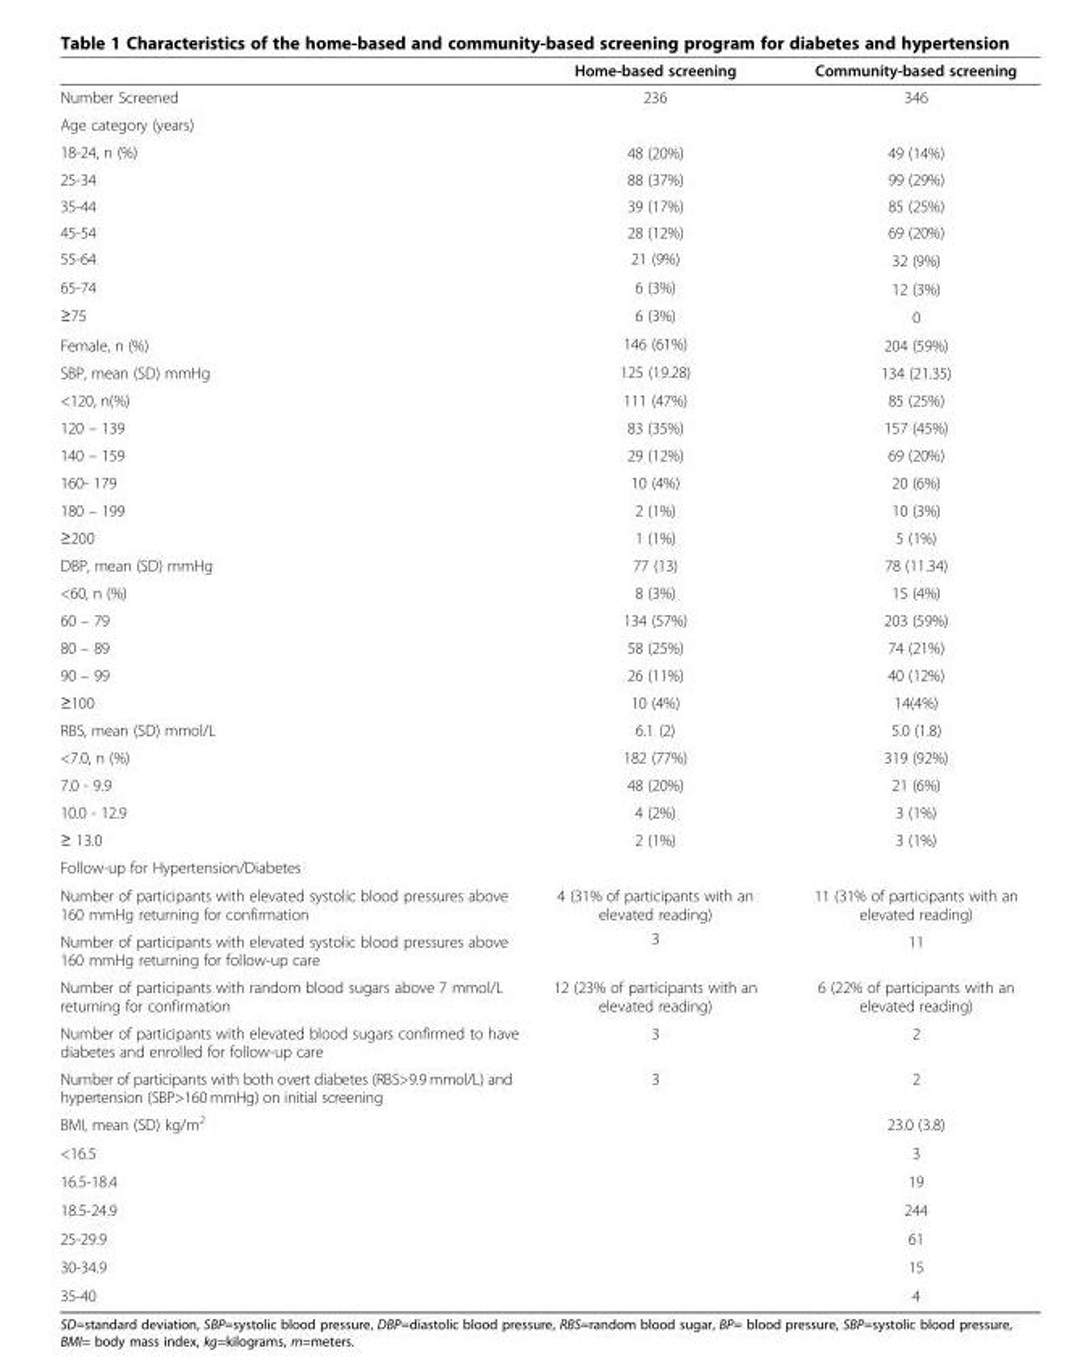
<table><thead><tr><td></td><td>Home-based screening</td><td>Community-based screening</td></tr></thead><tbody><tr><td>Number Screened</td><td>236</td><td>346</td></tr><tr><td colspan="3">Age category (years)</td></tr><tr><td>18-24, n (%)</td><td>48 (20%)</td><td>49 (14%)</td></tr><tr><td>25-34</td><td>88 (37%)</td><td>99 (29%)</td></tr><tr><td>35-44</td><td>39 (17%)</td><td>85 (25%)</td></tr><tr><td>45-54</td><td>28 (12%)</td><td>69 (20%)</td></tr><tr><td>55-64</td><td>21 (9%)</td><td>32 (9%)</td></tr><tr><td>65-74</td><td>6 (3%)</td><td>12 (3%)</td></tr><tr><td>≥75</td><td>6 (3%)</td><td>0</td></tr><tr><td>Female, n (%)</td><td>146 (61%)</td><td>204 (59%)</td></tr><tr><td>SBP, mean (SD) mmHg</td><td>125 (19.28)</td><td>134 (21.35)</td></tr><tr><td>&lt;120, n(%)</td><td>111 (47%)</td><td>85 (25%)</td></tr><tr><td>120 – 139</td><td>83 (35%)</td><td>157 (45%)</td></tr><tr><td>140 – 159</td><td>29 (12%)</td><td>69 (20%)</td></tr><tr><td>160- 179</td><td>10 (4%)</td><td>20 (6%)</td></tr><tr><td>180 – 199</td><td>2 (1%)</td><td>10 (3%)</td></tr><tr><td>≥200</td><td>1 (1%)</td><td>5 (1%)</td></tr><tr><td>DBP, mean (SD) mmHg</td><td>77 (13)</td><td>78 (11.34)</td></tr><tr><td>&lt;60, n (%)</td><td>8 (3%)</td><td>15 (4%)</td></tr><tr><td>60 – 79</td><td>134 (57%)</td><td>203 (59%)</td></tr><tr><td>80 – 89</td><td>58 (25%)</td><td>74 (21%)</td></tr><tr><td>90 – 99</td><td>26 (11%)</td><td>40 (12%)</td></tr><tr><td>≥100</td><td>10 (4%)</td><td>14(4%)</td></tr><tr><td>RBS, mean (SD) mmol/L</td><td>6.1 (2)</td><td>5.0 (1.8)</td></tr><tr><td>&lt;7.0, n (%)</td><td>182 (77%)</td><td>319 (92%)</td></tr><tr><td>7.0 - 9.9</td><td>48 (20%)</td><td>21 (6%)</td></tr><tr><td>10.0 - 12.9</td><td>4 (2%)</td><td>3 (1%)</td></tr><tr><td>≥ 13.0</td><td>2 (1%)</td><td>3 (1%)</td></tr><tr><td colspan="3">Follow-up for Hypertension/Diabetes</td></tr><tr><td>Number of participants with elevated systolic blood pressures above 160 mmHg returning for confirmation</td><td>4 (31% of participants with an elevated reading)</td><td>11 (31% of participants with an elevated reading)</td></tr><tr><td>Number of participants with elevated systolic blood pressures above 160 mmHg returning for follow-up care</td><td>3</td><td>11</td></tr><tr><td>Number of participants with random blood sugars above 7 mmol/L returning for confirmation</td><td>12 (23% of participants with an elevated reading)</td><td>6 (22% of participants with an elevated reading)</td></tr><tr><td>Number of participants with elevated blood sugars confirmed to have diabetes and enrolled for follow-up care</td><td>3</td><td>2</td></tr><tr><td>Number of participants with both overt diabetes (RBS&gt;9.9 mmol/L) and hypertension (SBP&gt;160 mmHg) on initial screening</td><td>3</td><td>2</td></tr><tr><td>BMI, mean (SD) kg/m<sup>2</sup></td><td></td><td>23.0 (3.8)</td></tr><tr><td>&lt;16.5</td><td></td><td>3</td></tr><tr><td>16.5-18.4</td><td></td><td>19</td></tr><tr><td>18.5-24.9</td><td></td><td>244</td></tr><tr><td>25-29.9</td><td></td><td>61</td></tr><tr><td>30-34.9</td><td></td><td>15</td></tr><tr><td>35-40</td><td></td><td>4</td></tr></tbody></table>